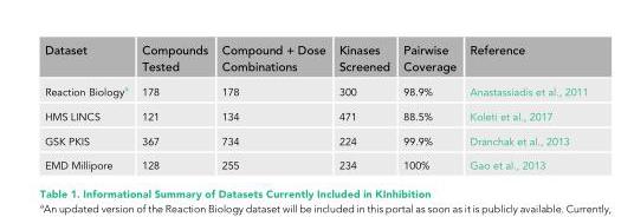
<table><thead><tr><td>Dataset</td><td>Compounds Tested</td><td>Compound + Dose Combinations</td><td>Kinases Screened</td><td>Pairwise Coverage</td><td>Reference</td></tr></thead><tbody><tr><td>Reaction Biology<sup>a</sup></td><td>178</td><td>178</td><td>300</td><td>98.9%</td><td>Anastassiadis et al., 2011</td></tr><tr><td>HMS LINCS</td><td>121</td><td>134</td><td>471</td><td>88.5%</td><td>Koleti et al., 2017</td></tr><tr><td>GSK PKIS</td><td>367</td><td>734</td><td>224</td><td>99.9%</td><td>Dranchak et al., 2013</td></tr><tr><td>EMD Millipore</td><td>128</td><td>255</td><td>234</td><td>100%</td><td>Gao et al., 2013</td></tr></tbody></table>